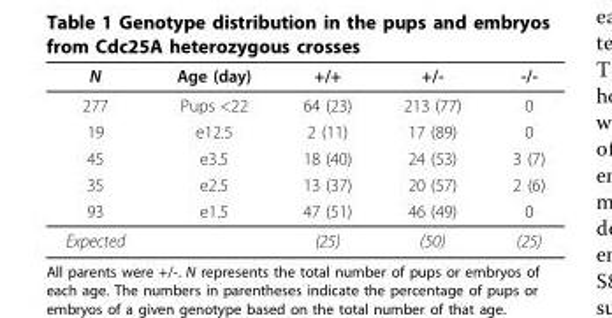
<table><thead><tr><td>N</td><td>Age (day)</td><td>+/+</td><td>+/-</td><td>-/-</td></tr></thead><tbody><tr><td>277</td><td>Pups &lt;22</td><td>64 (23)</td><td>213 (77)</td><td>0</td></tr><tr><td>19</td><td>e12.5</td><td>2 (11)</td><td>17 (89)</td><td>0</td></tr><tr><td>45</td><td>e3.5</td><td>18 (40)</td><td>24 (53)</td><td>3 (7)</td></tr><tr><td>35</td><td>e2.5</td><td>13 (37)</td><td>20 (57)</td><td>2 (6)</td></tr><tr><td>93</td><td>e1.5</td><td>47 (51)</td><td>46 (49)</td><td>0</td></tr><tr><td>Expected</td><td></td><td>(25)</td><td>(50)</td><td>(25)</td></tr></tbody></table>